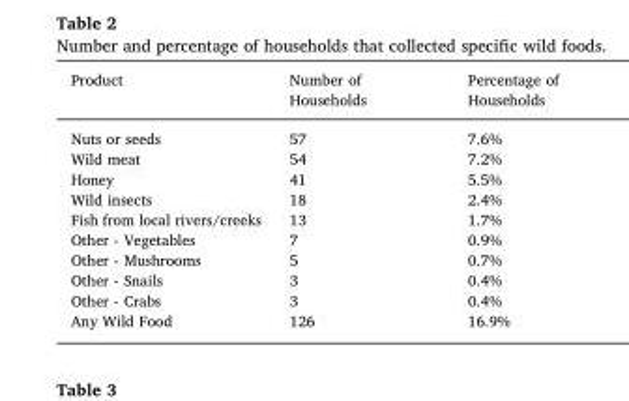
<table><thead><tr><td>Product</td><td>Number of Households</td><td>Percentage of Households</td></tr></thead><tbody><tr><td>Nuts or seeds</td><td>57</td><td>7.6%</td></tr><tr><td>Wild meat</td><td>54</td><td>7.2%</td></tr><tr><td>Honey</td><td>41</td><td>5.5%</td></tr><tr><td>Wild insects</td><td>18</td><td>2.4%</td></tr><tr><td>Fish from local rivers/creeks</td><td>13</td><td>1.7%</td></tr><tr><td>Other - Vegetables</td><td>7</td><td>0.9%</td></tr><tr><td>Other - Mushrooms</td><td>5</td><td>0.7%</td></tr><tr><td>Other - Snails</td><td>3</td><td>0.4%</td></tr><tr><td>Other - Crabs</td><td>3</td><td>0.4%</td></tr><tr><td>Any Wild Food</td><td>126</td><td>16.9%</td></tr></tbody></table>